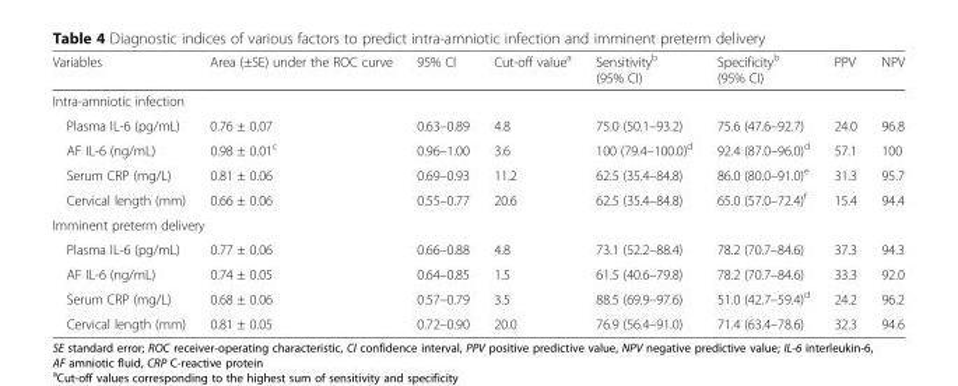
<table><thead><tr><td>Variables</td><td>Area (±SE) under the ROC curve</td><td>95% CI</td><td>Cut-off value<sup>a</sup></td><td>Sensitivity<sup>b</sup> (95% CI)</td><td>Specificity<sup>b</sup> (95% CI)</td><td>PPV</td><td>NPV</td></tr></thead><tbody><tr><td colspan="8">Intra-amniotic infection</td></tr><tr><td>Plasma IL-6 (pg/mL)</td><td>0.76 ± 0.07</td><td>0.63–0.89</td><td>4.8</td><td>75.0 (50.1–93.2)</td><td>75.6 (47.6–92.7)</td><td>24.0</td><td>96.8</td></tr><tr><td>AF IL-6 (ng/mL)</td><td>0.98 ± 0.01<sup>c</sup></td><td>0.96–1.00</td><td>3.6</td><td>100 (79.4–100.0)<sup>d</sup></td><td>92.4 (87.0–96.0)<sup>d</sup></td><td>57.1</td><td>100</td></tr><tr><td>Serum CRP (mg/L)</td><td>0.81 ± 0.06</td><td>0.69–0.93</td><td>11.2</td><td>62.5 (35.4–84.8)</td><td>86.0 (80.0–91.0)<sup>e</sup></td><td>31.3</td><td>95.7</td></tr><tr><td>Cervical length (mm)</td><td>0.66 ± 0.06</td><td>0.55–0.77</td><td>20.6</td><td>62.5 (35.4–84.8)</td><td>65.0 (57.0–72.4)<sup>f</sup></td><td>15.4</td><td>94.4</td></tr><tr><td colspan="8">Imminent preterm delivery</td></tr><tr><td>Plasma IL-6 (pg/mL)</td><td>0.77 ± 0.06</td><td>0.66–0.88</td><td>4.8</td><td>73.1 (52.2–88.4)</td><td>78.2 (70.7–84.6)</td><td>37.3</td><td>94.3</td></tr><tr><td>AF IL-6 (ng/mL)</td><td>0.74 ± 0.05</td><td>0.64–0.85</td><td>1.5</td><td>61.5 (40.6–79.8)</td><td>78.2 (70.7–84.6)</td><td>33.3</td><td>92.0</td></tr><tr><td>Serum CRP (mg/L)</td><td>0.68 ± 0.06</td><td>0.57–0.79</td><td>3.5</td><td>88.5 (69.9–97.6)</td><td>51.0 (42.7–59.4)<sup>d</sup></td><td>24.2</td><td>96.2</td></tr><tr><td>Cervical length (mm)</td><td>0.81 ± 0.05</td><td>0.72–0.90</td><td>20.0</td><td>76.9 (56.4–91.0)</td><td>71.4 (63.4–78.6)</td><td>32.3</td><td>94.6</td></tr></tbody></table>